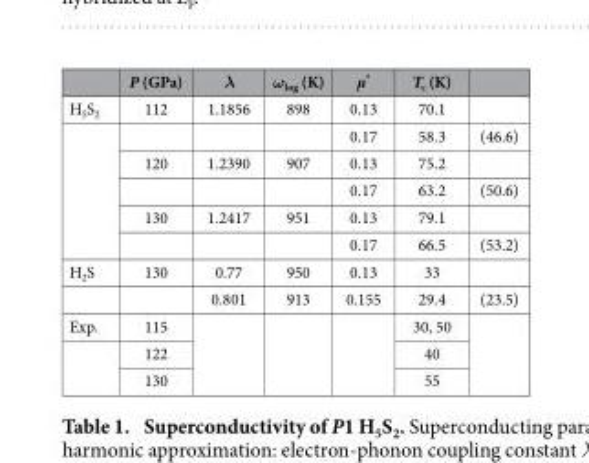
<table><thead><tr><td></td><td>P (GPa)</td><td>λ</td><td>ω<sub>log</sub> (K)</td><td>μ*</td><td>T<sub>c</sub> (K)</td><td></td></tr></thead><tbody><tr><td rowspan="6">H<sub>5</sub>S<sub>2</sub></td><td>112</td><td>1.1856</td><td>898</td><td>0.13</td><td>70.1</td><td></td></tr><tr><td></td><td></td><td></td><td>0.17</td><td>58.3</td><td>(46.6)</td></tr><tr><td>120</td><td>1.2390</td><td>907</td><td>0.13</td><td>75.2</td><td></td></tr><tr><td></td><td></td><td></td><td>0.17</td><td>63.2</td><td>(50.6)</td></tr><tr><td>130</td><td>1.2417</td><td>951</td><td>0.13</td><td>79.1</td><td></td></tr><tr><td></td><td></td><td></td><td>0.17</td><td>66.5</td><td>(53.2)</td></tr><tr><td rowspan="2">H<sub>2</sub>S</td><td>130</td><td>0.77</td><td>950</td><td>0.13</td><td>33</td><td></td></tr><tr><td></td><td>0.801</td><td>913</td><td>0.155</td><td>29.4</td><td>(23.5)</td></tr><tr><td rowspan="3">Exp.</td><td>115</td><td rowspan="3"></td><td rowspan="3"></td><td rowspan="3"></td><td>30, 50</td><td rowspan="3"></td></tr><tr><td>122</td><td>40</td></tr><tr><td>130</td><td>55</td></tr></tbody></table>